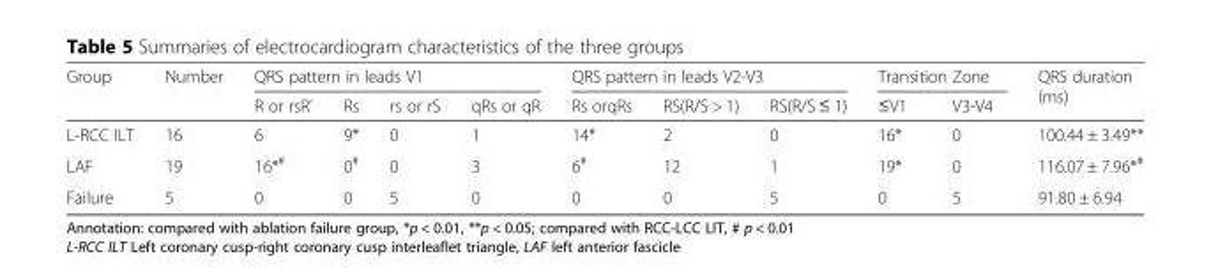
<table><thead><tr><td rowspan="2">Group</td><td rowspan="2">Number</td><td colspan="4">QRS pattern in leads V1</td><td colspan="3">QRS pattern in leads V2-V3</td><td colspan="2">Transition Zone</td><td rowspan="2">QRS duration (ms)</td></tr><tr><td>R or rsR’</td><td>Rs</td><td>rs or rS</td><td>qRs or qR</td><td>Rs orqRs</td><td>RS(R/S &gt; 1)</td><td>RS(R/S ≤ 1)</td><td>≤V1</td><td>V3-V4</td></tr></thead><tbody><tr><td>L-RCC ILT</td><td>16</td><td>6</td><td>9*</td><td>0</td><td>1</td><td>14*</td><td>2</td><td>0</td><td>16*</td><td>0</td><td>100.44 ± 3.49**</td></tr><tr><td>LAF</td><td>19</td><td>16*<sup>#</sup></td><td>0<sup>#</sup></td><td>0</td><td>3</td><td>6<sup>#</sup></td><td>12</td><td>1</td><td>19*</td><td>0</td><td>116.07 ± 7.96*<sup>#</sup></td></tr><tr><td>Failure</td><td>5</td><td>0</td><td>0</td><td>5</td><td>0</td><td>0</td><td>0</td><td>5</td><td>0</td><td>5</td><td>91.80 ± 6.94</td></tr></tbody></table>